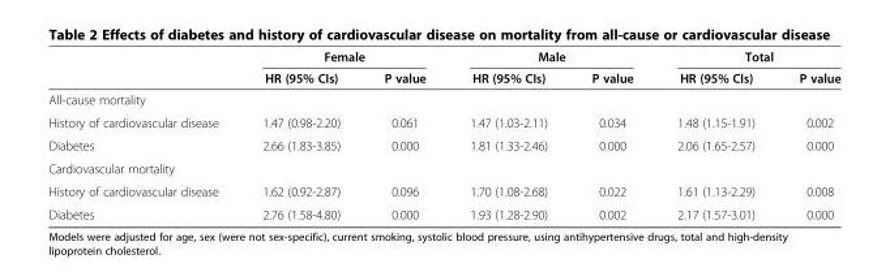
<table><thead><tr><td rowspan="2"></td><td colspan="2">Female</td><td colspan="2">Male</td><td colspan="2">Total</td></tr><tr><td>HR (95% CIs)</td><td>P value</td><td>HR (95% CIs)</td><td>P value</td><td>HR (95% CIs)</td><td>P value</td></tr></thead><tbody><tr><td colspan="7">All-cause mortality</td></tr><tr><td>History of cardiovascular disease</td><td>1.47 (0.98-2.20)</td><td>0.061</td><td>1.47 (1.03-2.11)</td><td>0.034</td><td>1.48 (1.15-1.91)</td><td>0.002</td></tr><tr><td>Diabetes</td><td>2.66 (1.83-3.85)</td><td>0.000</td><td>1.81 (1.33-2.46)</td><td>0.000</td><td>2.06 (1.65-2.57)</td><td>0.000</td></tr><tr><td colspan="7">Cardiovascular mortality</td></tr><tr><td>History of cardiovascular disease</td><td>1.62 (0.92-2.87)</td><td>0.096</td><td>1.70 (1.08-2.68)</td><td>0.022</td><td>1.61 (1.13-2.29)</td><td>0.008</td></tr><tr><td>Diabetes</td><td>2.76 (1.58-4.80)</td><td>0.000</td><td>1.93 (1.28-2.90)</td><td>0.002</td><td>2.17 (1.57-3.01)</td><td>0.000</td></tr></tbody></table>